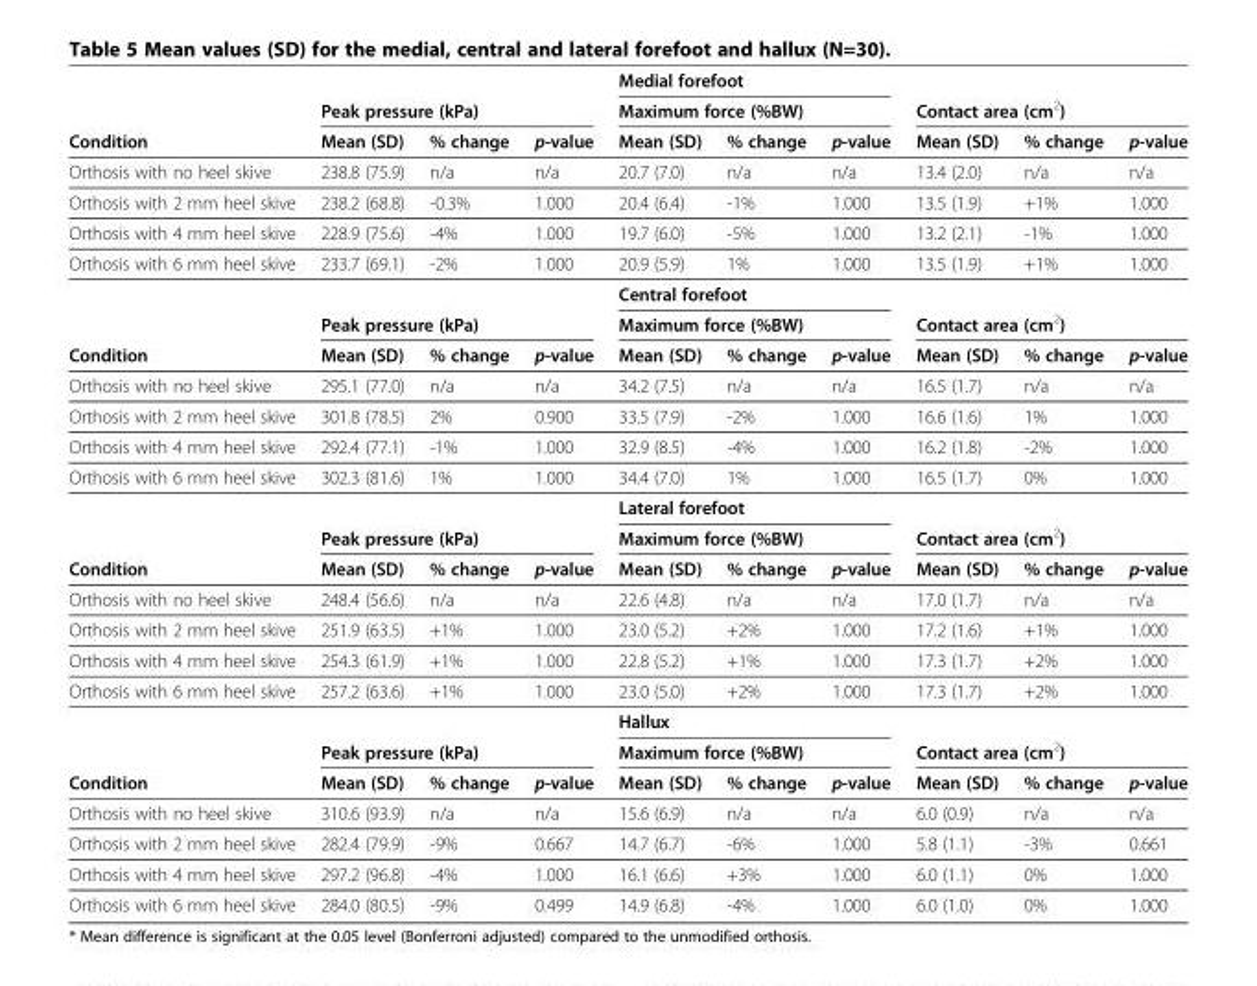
<table><thead><tr><td rowspan="3">Condition</td><td></td><td></td><td></td><td rowspan="2" colspan="3">Medial forefoot Maximum force (%BW)</td><td></td><td></td><td></td></tr><tr><td colspan="3">Peak pressure (kPa)</td><td colspan="3">Contact area (cm<sup>2</sup>)</td></tr><tr><td>Mean (SD)</td><td>% change</td><td>p-value</td><td>Mean (SD)</td><td>% change</td><td>p-value</td><td>Mean (SD)</td><td>% change</td><td>p-value</td></tr></thead><tbody><tr><td>Orthosis with no heel skive</td><td>238.8 (75.9)</td><td>n/a</td><td>n/a</td><td>20.7 (7.0)</td><td>n/a</td><td>n/a</td><td>13.4 (2.0)</td><td>n/a</td><td>n/a</td></tr><tr><td>Orthosis with 2 mm heel skive</td><td>238.2 (68.8)</td><td>-0.3%</td><td>1.000</td><td>20.4 (6.4)</td><td>-1%</td><td>1.000</td><td>13.5 (1.9)</td><td>+1%</td><td>1.000</td></tr><tr><td>Orthosis with 4 mm heel skive</td><td>228.9 (75.6)</td><td>-4%</td><td>1.000</td><td>19.7 (6.0)</td><td>-5%</td><td>1.000</td><td>13.2 (2.1)</td><td>-1%</td><td>1.000</td></tr><tr><td rowspan="3">Orthosis with 6 mm heel skive</td><td>233.7 (69.1)</td><td>-2%</td><td>1.000</td><td>20.9 (5.9)</td><td>1%</td><td>1.000</td><td>13.5 (1.9)</td><td>+1%</td><td>1.000</td></tr><tr><td></td><td></td><td></td><td colspan="3">Central forefoot</td><td></td><td></td><td></td></tr><tr><td colspan="3">Peak pressure (kPa)</td><td colspan="3">Maximum force (%BW)</td><td colspan="3">Contact area (cm<sup>2</sup>)</td></tr><tr><td>Condition</td><td>Mean (SD)</td><td>% change</td><td>p-value</td><td>Mean (SD)</td><td>% change</td><td>p-value</td><td>Mean (SD)</td><td>% change</td><td>p-value</td></tr><tr><td>Orthosis with no heel skive</td><td>295.1 (77.0)</td><td>n/a</td><td>n/a</td><td>34.2 (7.5)</td><td>n/a</td><td>n/a</td><td>16.5 (1.7)</td><td>n/a</td><td>n/a</td></tr><tr><td>Orthosis with 2 mm heel skive</td><td>301.8 (78.5)</td><td>2%</td><td>0.900</td><td>33.5 (7.9)</td><td>-2%</td><td>1.000</td><td>16.6 (1.6)</td><td>1%</td><td>1.000</td></tr><tr><td>Orthosis with 4 mm heel skive</td><td>292.4 (77.1)</td><td>-1%</td><td>1.000</td><td>32.9 (8.5)</td><td>-4%</td><td>1.000</td><td>16.2 (1.8)</td><td>-2%</td><td>1.000</td></tr><tr><td rowspan="3">Orthosis with 6 mm heel skive</td><td>302.3 (81.6)</td><td>1%</td><td>1.000</td><td>34.4 (7.0)</td><td>1%</td><td>1.000</td><td>16.5 (1.7)</td><td>0%</td><td>1.000</td></tr><tr><td></td><td></td><td></td><td colspan="3">Lateral forefoot</td><td></td><td></td><td></td></tr><tr><td colspan="3">Peak pressure (kPa)</td><td colspan="3">Maximum force (%BW)</td><td colspan="3">Contact area (cm<sup>2</sup>)</td></tr><tr><td>Condition</td><td>Mean (SD)</td><td>% change</td><td>p-value</td><td>Mean (SD)</td><td>% change</td><td>p-value</td><td>Mean (SD)</td><td>% change</td><td>p-value</td></tr><tr><td>Orthosis with no heel skive</td><td>248.4 (56.6)</td><td>n/a</td><td>n/a</td><td>22.6 (4.8)</td><td>n/a</td><td>n/a</td><td>17.0 (1.7)</td><td>n/a</td><td>n/a</td></tr><tr><td>Orthosis with 2 mm heel skive</td><td>251.9 (63.5)</td><td>+1%</td><td>1.000</td><td>23.0 (5.2)</td><td>+2%</td><td>1.000</td><td>17.2 (1.6)</td><td>+1%</td><td>1.000</td></tr><tr><td>Orthosis with 4 mm heel skive</td><td>254.3 (61.9)</td><td>+1%</td><td>1.000</td><td>22.8 (5.2)</td><td>+1%</td><td>1.000</td><td>17.3 (1.7)</td><td>+2%</td><td>1.000</td></tr><tr><td rowspan="3">Orthosis with 6 mm heel skive</td><td>257.2 (63.6)</td><td>+1%</td><td>1.000</td><td>23.0 (5.0)</td><td>+2%</td><td>1.000</td><td>17.3 (1.7)</td><td>+2%</td><td>1.000</td></tr><tr><td></td><td></td><td></td><td colspan="3">Hallux</td><td></td><td></td><td></td></tr><tr><td colspan="3">Peak pressure (kPa)</td><td colspan="3">Maximum force (%BW)</td><td colspan="3">Contact area (cm<sup>2</sup>)</td></tr><tr><td>Condition</td><td>Mean (SD)</td><td>% change</td><td>p-value</td><td>Mean (SD)</td><td>% change</td><td>p-value</td><td>Mean (SD)</td><td>% change</td><td>p-value</td></tr><tr><td>Orthosis with no heel skive</td><td>310.6 (93.9)</td><td>n/a</td><td>n/a</td><td>15.6 (6.9)</td><td>n/a</td><td>n/a</td><td>6.0 (0.9)</td><td>n/a</td><td>n/a</td></tr><tr><td>Orthosis with 2 mm heel skive</td><td>282.4 (79.9)</td><td>-9%</td><td>0.667</td><td>14.7 (6.7)</td><td>-6%</td><td>1.000</td><td>5.8 (1.1)</td><td>-3%</td><td>0.661</td></tr><tr><td>Orthosis with 4 mm heel skive</td><td>297.2 (96.8)</td><td>-4%</td><td>1.000</td><td>16.1 (6.6)</td><td>+3%</td><td>1.000</td><td>6.0 (1.1)</td><td>0%</td><td>1.000</td></tr><tr><td>Orthosis with 6 mm heel skive</td><td>284.0 (80.5)</td><td>-9%</td><td>0.499</td><td>14.9 (6.8)</td><td>-4%</td><td>1.000</td><td>6.0 (1.0)</td><td>0%</td><td>1.000</td></tr></tbody></table>